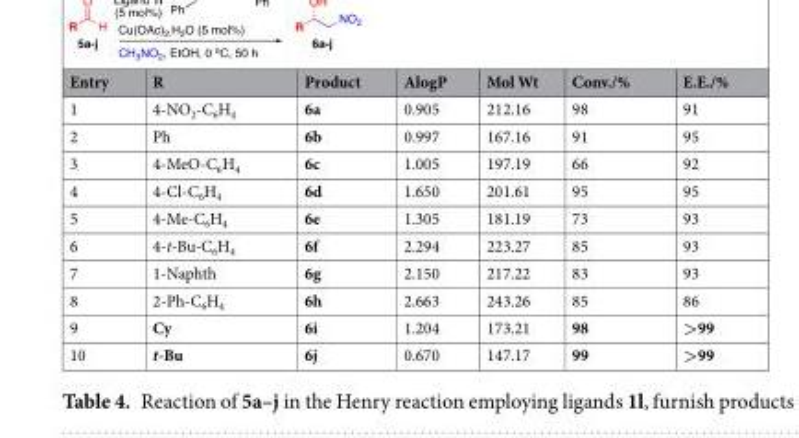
<table><thead><tr><td>Entry</td><td>R</td><td>Product</td><td>AlogP</td><td>Mol Wt</td><td>Conv./%</td><td>E.E./%</td></tr></thead><tbody><tr><td>1</td><td>4-NO<sub>2</sub>-C<sub>6</sub>H<sub>4</sub></td><td>6a</td><td>0.905</td><td>212.16</td><td>98</td><td>91</td></tr><tr><td>2</td><td>Ph</td><td>6b</td><td>0.997</td><td>167.16</td><td>91</td><td>95</td></tr><tr><td>3</td><td>4-MeO-C<sub>6</sub>H<sub>4</sub></td><td>6c</td><td>1.005</td><td>197.19</td><td>66</td><td>92</td></tr><tr><td>4</td><td>4-Cl-C<sub>6</sub>H<sub>4</sub></td><td>6d</td><td>1.650</td><td>201.61</td><td>95</td><td>95</td></tr><tr><td>5</td><td>4-Me-C<sub>6</sub>H<sub>4</sub></td><td>6e</td><td>1.305</td><td>181.19</td><td>73</td><td>93</td></tr><tr><td>6</td><td>4-t-Bu-C<sub>6</sub>H<sub>4</sub></td><td>6f</td><td>2.294</td><td>223.27</td><td>85</td><td>93</td></tr><tr><td>7</td><td>1-Naphth</td><td>6g</td><td>2.150</td><td>217.22</td><td>83</td><td>93</td></tr><tr><td>8</td><td>2-Ph-C<sub>6</sub>H<sub>4</sub></td><td>6h</td><td>2.663</td><td>243.26</td><td>85</td><td>86</td></tr><tr><td>9</td><td>Cy</td><td>6i</td><td>1.204</td><td>173.21</td><td>98</td><td>&gt;99</td></tr><tr><td>10</td><td>t-Bu</td><td>6j</td><td>0.670</td><td>147.17</td><td>99</td><td>&gt;99</td></tr></tbody></table>